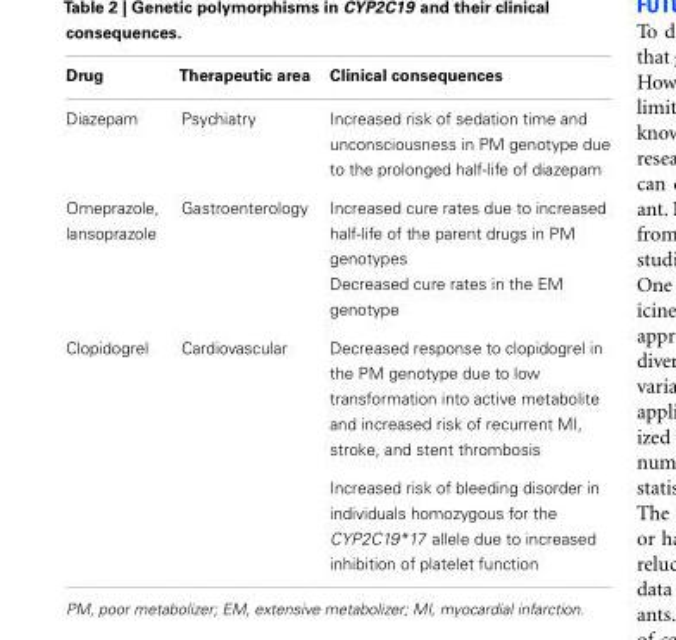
<table><thead><tr><td>Drug</td><td>Therapeutic area</td><td>Clinical consequences</td></tr></thead><tbody><tr><td>Diazepam</td><td>Psychiatry</td><td>Increased risk of sedation time and unconsciousness in PM genotype due to the prolonged half-life of diazepam</td></tr><tr><td rowspan="2">Omeprazole, lansoprazole</td><td>Gastroenterology</td><td>Increased cure rates due to increased half-life of the parent drugs in PM genotypes</td></tr><tr><td></td><td>Decreased cure rates in the EM genotype</td></tr><tr><td rowspan="2">Clopidogrel</td><td>Cardiovascular</td><td>Decreased response to clopidogrel in the PM genotype due to low transformation into active metabolite and increased risk of recurrent MI, stroke, and stent thrombosis</td></tr><tr><td></td><td>Increased risk of bleeding disorder in individuals homozygous for the CYP2C19*17 allele due to increased inhibition of platelet function</td></tr></tbody></table>